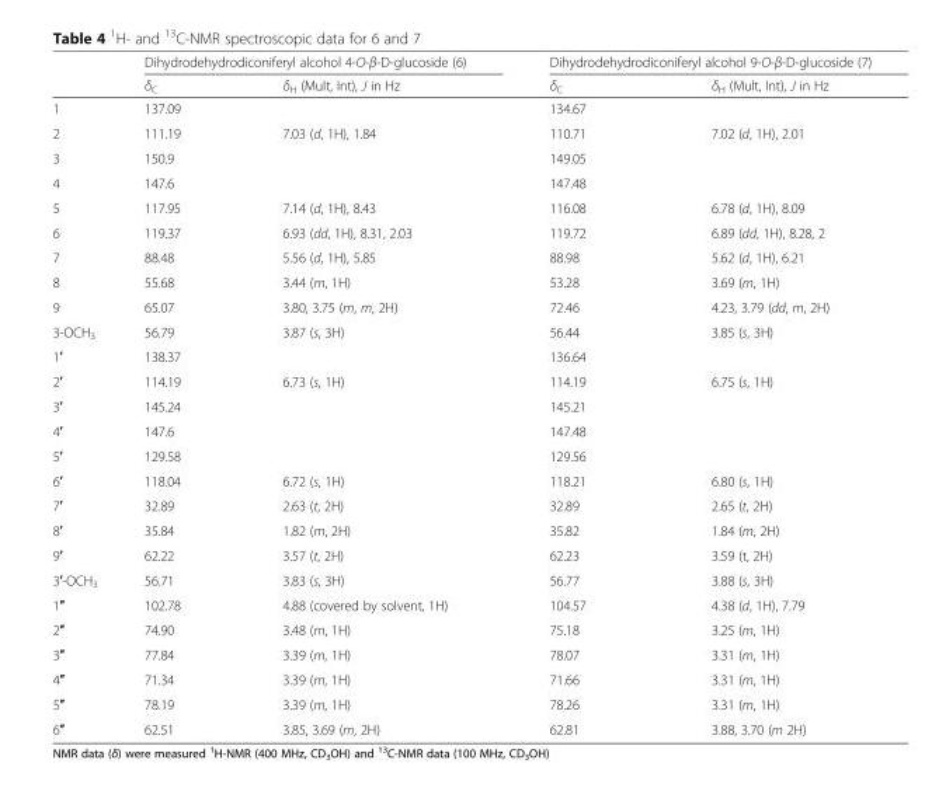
<table><thead><tr><td rowspan="2"></td><td colspan="2">Dihydrodehydrodiconiferyl alcohol 4-O-β-D-glucoside (6)</td><td colspan="2">Dihydrodehydrodiconiferyl alcohol 9-O-β-D-glucoside (7)</td></tr><tr><td>δ<sub>C</sub></td><td>δ<sub>H</sub> (Mult, Int), J in Hz</td><td>δ<sub>C</sub></td><td>δ<sub>H</sub> (Mult, Int), J in Hz</td></tr></thead><tbody><tr><td>1</td><td>137.09</td><td></td><td>134.67</td><td></td></tr><tr><td>2</td><td>111.19</td><td>7.03 (d, 1H), 1.84</td><td>110.71</td><td>7.02 (d, 1H), 2.01</td></tr><tr><td>3</td><td>150.9</td><td></td><td>149.05</td><td></td></tr><tr><td>4</td><td>147.6</td><td></td><td>147.48</td><td></td></tr><tr><td>5</td><td>117.95</td><td>7.14 (d, 1H), 8.43</td><td>116.08</td><td>6.78 (d, 1H), 8.09</td></tr><tr><td>6</td><td>119.37</td><td>6.93 (dd, 1H), 8.31, 2.03</td><td>119.72</td><td>6.89 (dd, 1H), 8.28, 2</td></tr><tr><td>7</td><td>88.48</td><td>5.56 (d, 1H), 5.85</td><td>88.98</td><td>5.62 (d, 1H), 6.21</td></tr><tr><td>8</td><td>55.68</td><td>3.44 (m, 1H)</td><td>53.28</td><td>3.69 (m, 1H)</td></tr><tr><td>9</td><td>65.07</td><td>3.80, 3.75 (m, m, 2H)</td><td>72.46</td><td>4.23, 3.79 (dd, m, 2H)</td></tr><tr><td>3-OCH<sub>3</sub></td><td>56.79</td><td>3.87 (s, 3H)</td><td>56.44</td><td>3.85 (s, 3H)</td></tr><tr><td>1′</td><td>138.37</td><td></td><td>136.64</td><td></td></tr><tr><td>2′</td><td>114.19</td><td>6.73 (s, 1H)</td><td>114.19</td><td>6.75 (s, 1H)</td></tr><tr><td>3′</td><td>145.24</td><td></td><td>145.21</td><td></td></tr><tr><td>4′</td><td>147.6</td><td></td><td>147.48</td><td></td></tr><tr><td>5′</td><td>129.58</td><td></td><td>129.56</td><td></td></tr><tr><td>6′</td><td>118.04</td><td>6.72 (s, 1H)</td><td>118.21</td><td>6.80 (s, 1H)</td></tr><tr><td>7′</td><td>32.89</td><td>2.63 (t, 2H)</td><td>32.89</td><td>2.65 (t, 2H)</td></tr><tr><td>8′</td><td>35.84</td><td>1.82 (m, 2H)</td><td>35.82</td><td>1.84 (m, 2H)</td></tr><tr><td>9′</td><td>62.22</td><td>3.57 (t, 2H)</td><td>62.23</td><td>3.59 (t, 2H)</td></tr><tr><td>3′-OCH<sub>3</sub></td><td>56.71</td><td>3.83 (s, 3H)</td><td>56.77</td><td>3.88 (s, 3H)</td></tr><tr><td>1″</td><td>102.78</td><td>4.88 (covered by solvent, 1H)</td><td>104.57</td><td>4.38 (d, 1H), 7.79</td></tr><tr><td>2″</td><td>74.90</td><td>3.48 (m, 1H)</td><td>75.18</td><td>3.25 (m, 1H)</td></tr><tr><td>3″</td><td>77.84</td><td>3.39 (m, 1H)</td><td>78.07</td><td>3.31 (m, 1H)</td></tr><tr><td>4″</td><td>71.34</td><td>3.39 (m, 1H)</td><td>71.66</td><td>3.31 (m, 1H)</td></tr><tr><td>5″</td><td>78.19</td><td>3.39 (m, 1H)</td><td>78.26</td><td>3.31 (m, 1H)</td></tr><tr><td>6″</td><td>62.51</td><td>3.85, 3.69 (m, 2H)</td><td>62.81</td><td>3.88, 3.70 (m 2H)</td></tr></tbody></table>